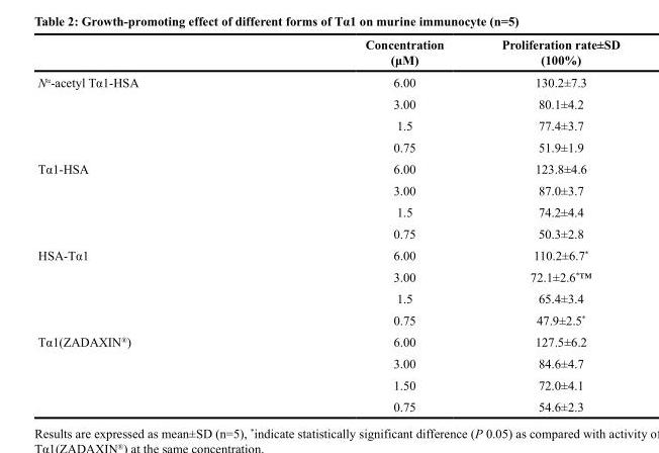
<table><thead><tr><td></td><td>Concentration (μM)</td><td>Proliferation rate±SD (100%)</td></tr></thead><tbody><tr><td rowspan="4">N<sup>α</sup>-acetyl Tα1-HSA</td><td>6.00</td><td>130.2±7.3</td></tr><tr><td>3.00</td><td>80.1±4.2</td></tr><tr><td>1.5</td><td>77.4±3.7</td></tr><tr><td>0.75</td><td>51.9±1.9</td></tr><tr><td rowspan="4">Tα1-HSA</td><td>6.00</td><td>123.8±4.6</td></tr><tr><td>3.00</td><td>87.0±3.7</td></tr><tr><td>1.5</td><td>74.2±4.4</td></tr><tr><td>0.75</td><td>50.3±2.8</td></tr><tr><td rowspan="4">HSA-Tα1</td><td>6.00</td><td>110.2±6.7*</td></tr><tr><td>3.00</td><td>72.1±2.6*™</td></tr><tr><td>1.5</td><td>65.4±3.4</td></tr><tr><td>0.75</td><td>47.9±2.5*</td></tr><tr><td rowspan="4">Tα1(ZADAXIN<sup>®</sup>)</td><td>6.00</td><td>127.5±6.2</td></tr><tr><td>3.00</td><td>84.6±4.7</td></tr><tr><td>1.50</td><td>72.0±4.1</td></tr><tr><td>0.75</td><td>54.6±2.3</td></tr></tbody></table>